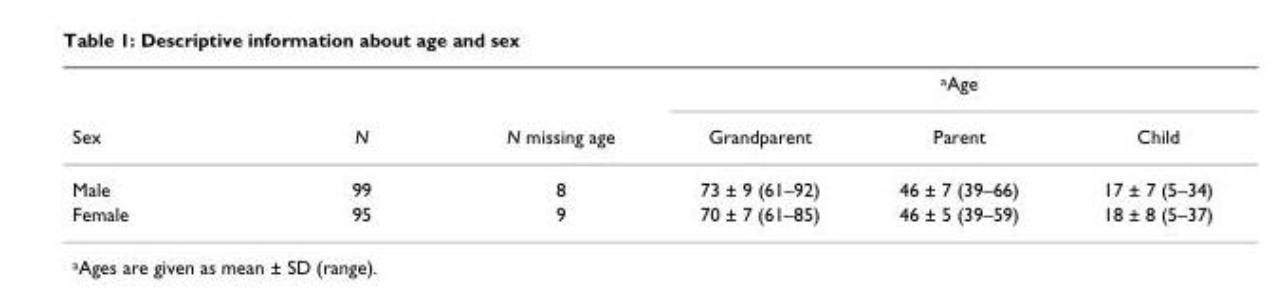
<table><thead><tr><td rowspan="2">Sex</td><td rowspan="2">N</td><td rowspan="2">N missing age</td><td colspan="3"><sup>a</sup>Age</td></tr><tr><td>Grandparent</td><td>Parent</td><td>Child</td></tr></thead><tbody><tr><td>Male</td><td>99</td><td>8</td><td>73 ± 9 (61–92)</td><td>46 ± 7 (39–66)</td><td>17 ± 7 (5–34)</td></tr><tr><td>Female</td><td>95</td><td>9</td><td>70 ± 7 (61–85)</td><td>46 ± 5 (39–59)</td><td>18 ± 8 (5–37)</td></tr></tbody></table>